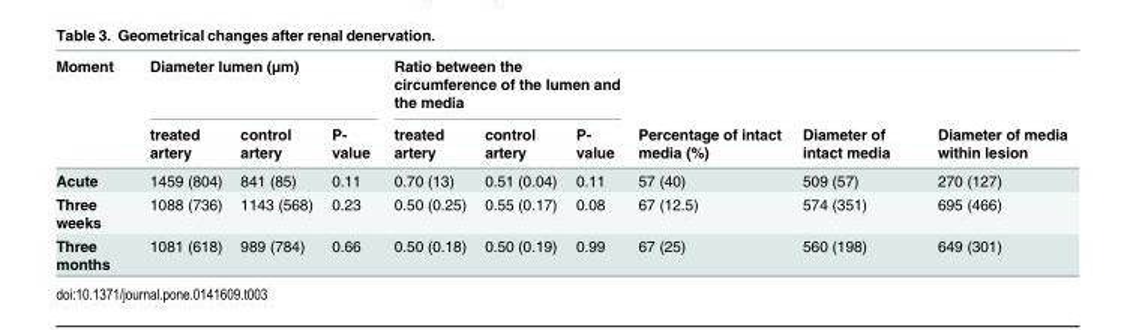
<table><thead><tr><td rowspan="2">Moment</td><td colspan="3">Diameter lumen (μm)</td><td colspan="3">Ratio between the circumference of the lumen and the media</td><td rowspan="2">Percentage of intact media (%)</td><td rowspan="2">Diameter of intact media</td><td rowspan="2">Diameter of media within lesion</td></tr><tr><td>treated artery</td><td>control artery</td><td>P- value</td><td>treated artery</td><td>control artery</td><td>P- value</td></tr></thead><tbody><tr><td>Acute</td><td>1459 (804)</td><td>841 (85)</td><td>0.11</td><td>0.70 (13)</td><td>0.51 (0.04)</td><td>0.11</td><td>57 (40)</td><td>509 (57)</td><td>270 (127)</td></tr><tr><td>Three weeks</td><td>1088 (736)</td><td>1143 (568)</td><td>0.23</td><td>0.50 (0.25)</td><td>0.55 (0.17)</td><td>0.08</td><td>67 (12.5)</td><td>574 (351)</td><td>695 (466)</td></tr><tr><td>Three months</td><td>1081 (618)</td><td>989 (784)</td><td>0.66</td><td>0.50 (0.18)</td><td>0.50 (0.19)</td><td>0.99</td><td>67 (25)</td><td>560 (198)</td><td>649 (301)</td></tr></tbody></table>